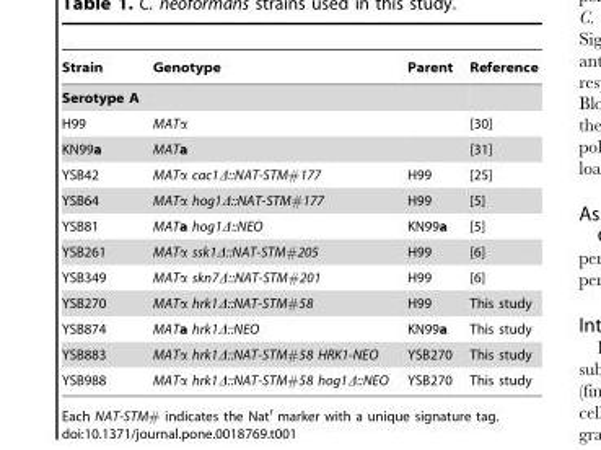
<table><thead><tr><td>Strain</td><td>Genotype</td><td>Parent</td><td>Reference</td></tr></thead><tbody><tr><td colspan="4">Serotype A</td></tr><tr><td>H99</td><td>MATα</td><td></td><td>[30]</td></tr><tr><td>KN99a</td><td>MATa</td><td></td><td>[31]</td></tr><tr><td>YSB42</td><td>MATα cac1Δ::NAT-STM#177</td><td>H99</td><td>[25]</td></tr><tr><td>YSB64</td><td>MATα hog1Δ::NAT-STM#177</td><td>H99</td><td>[5]</td></tr><tr><td>YSB81</td><td>MATa hog1Δ::NEO</td><td>KN99a</td><td>[5]</td></tr><tr><td>YSB261</td><td>MATα ssk1Δ::NAT-STM#205</td><td>H99</td><td>[6]</td></tr><tr><td>YSB349</td><td>MATα skn7Δ::NAT-STM#201</td><td>H99</td><td>[6]</td></tr><tr><td>YSB270</td><td>MATα hrk1Δ::NAT-STM#58</td><td>H99</td><td>This study</td></tr><tr><td>YSB874</td><td>MATa hrk1Δ::NEO</td><td>KN99a</td><td>This study</td></tr><tr><td>YSB883</td><td>MATα hrk1Δ::NAT-STM#58 HRK1-NEO</td><td>YSB270</td><td>This study</td></tr><tr><td>YSB988</td><td>MATα hrk1Δ::NAT-STM#58 hog1Δ::NEO</td><td>YSB270</td><td>This study</td></tr></tbody></table>